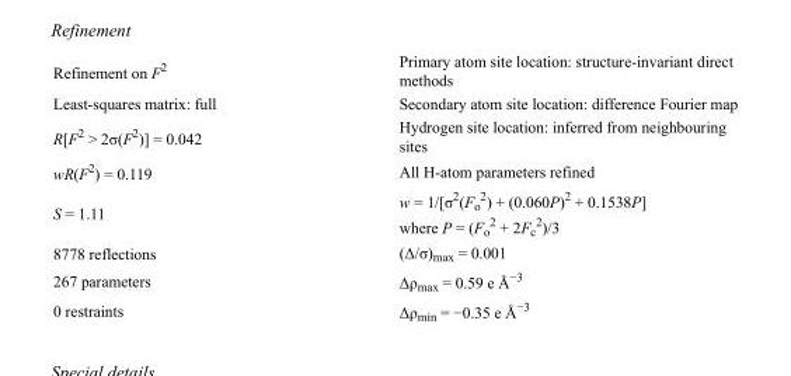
<table><tbody><tr><td>Refinement on F<sup>2</sup></td><td>Primary atom site location: structure-invariant direct methods</td></tr><tr><td>Least-squares matrix: full</td><td>Secondary atom site location: difference Fourier map</td></tr><tr><td>R[F<sup>2</sup> &gt; 2σ(F<sup>2</sup>)] = 0.042</td><td>Hydrogen site location: inferred from neighbouring sites</td></tr><tr><td>wR(F<sup>2</sup>) = 0.119</td><td>All H-atom parameters refined</td></tr><tr><td>S = 1.11</td><td>w = 1/[σ<sup>2</sup>(F<sub>o</sub> <sup>2</sup>) + (0.060P)<sup>2</sup> + 0.1538P] where P = (F<sub>o</sub> <sup>2</sup> + 2F<sub>c</sub> <sup>2</sup>)/3</td></tr><tr><td>8778 reflections</td><td>(Δ/σ)<sub>max</sub> = 0.001</td></tr><tr><td>267 parameters</td><td>Δρ<sub>max</sub> = 0.59 e Å<sup>−3</sup></td></tr><tr><td>0 restraints</td><td>Δρ<sub>min</sub> = −0.35 e Å<sup>−3</sup></td></tr></tbody></table>